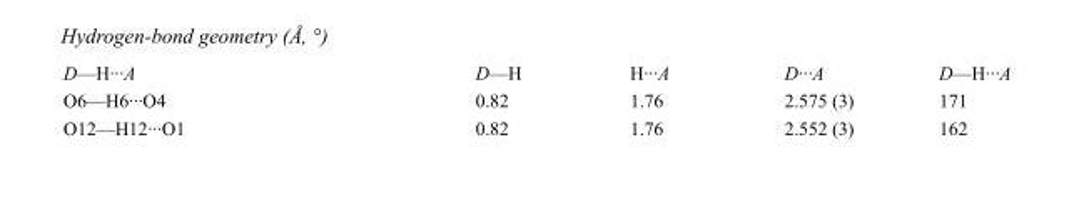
<table><tbody><tr><td>D—H···A</td><td>D—H</td><td>H···A</td><td>D···A</td><td>D—H···A</td></tr><tr><td>O6—H6···O4</td><td>0.82</td><td>1.76</td><td>2.575 (3)</td><td>171</td></tr><tr><td>O12—H12···O1</td><td>0.82</td><td>1.76</td><td>2.552 (3)</td><td>162</td></tr></tbody></table>